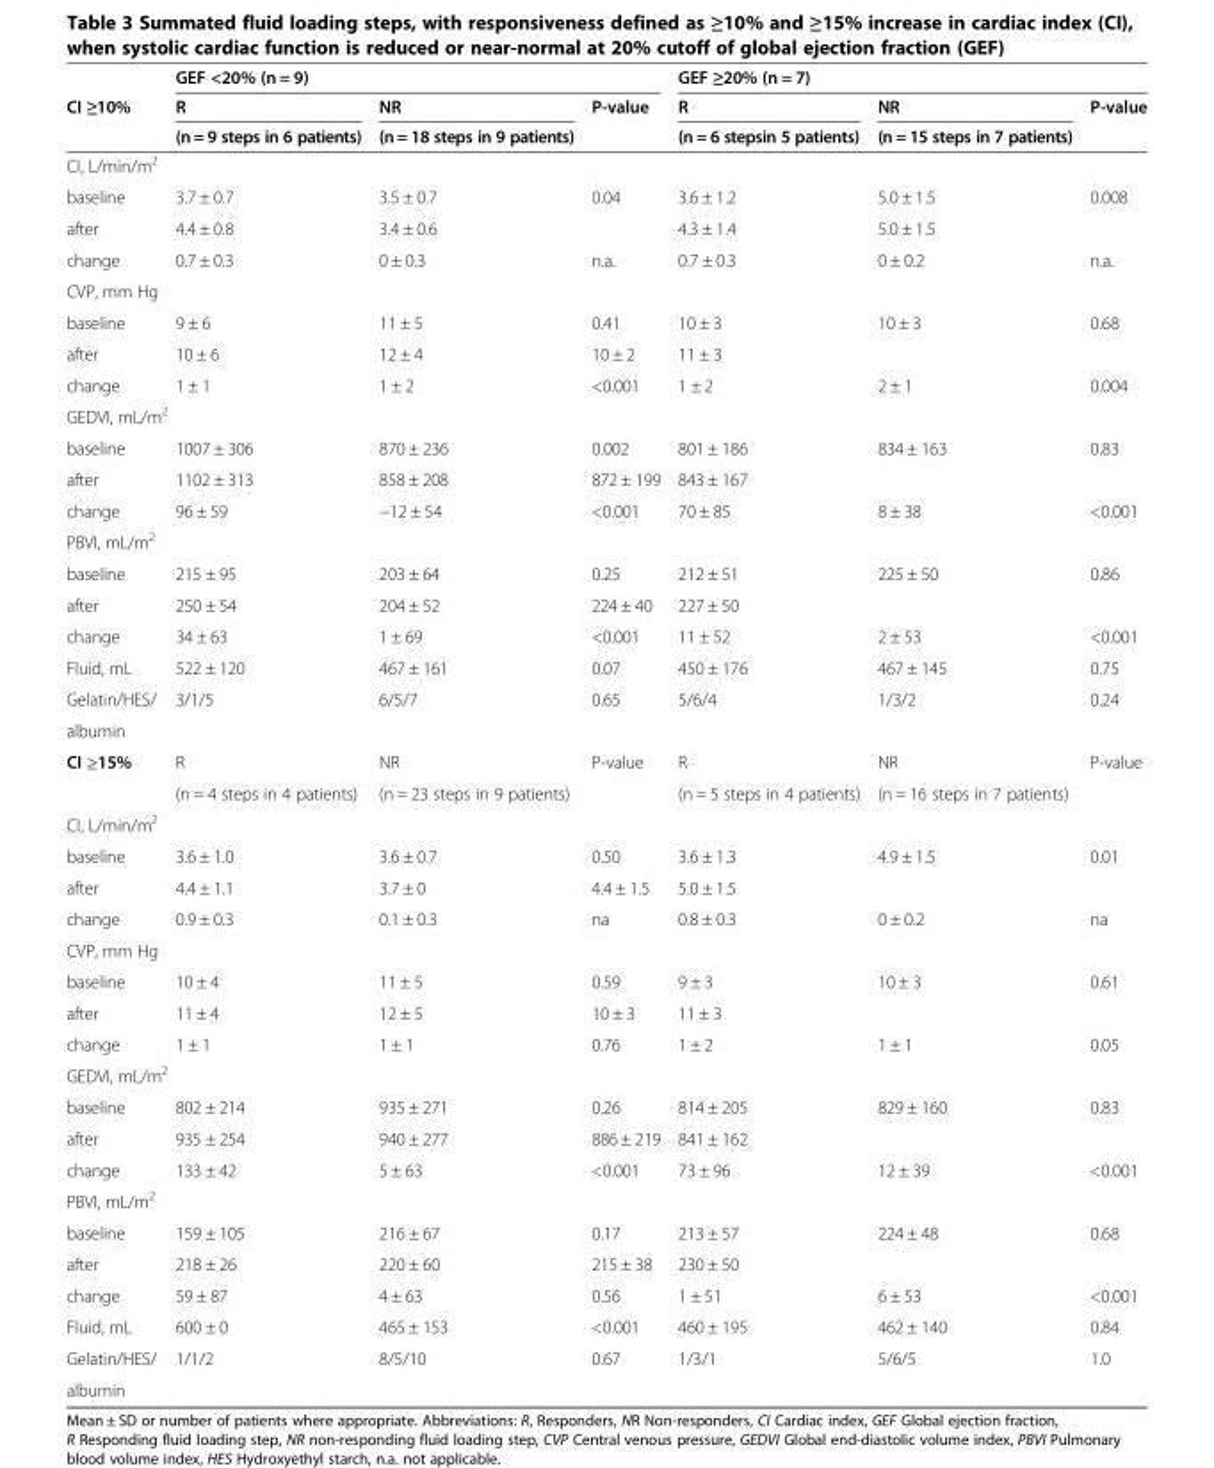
<table><thead><tr><td rowspan="3">CI ≥10%</td><td colspan="3">GEF &lt;20% (n = 9)</td><td colspan="3">GEF ≥20% (n = 7)</td></tr><tr><td rowspan="2">R (n = 9 steps in 6 patients)</td><td rowspan="2">NR (n = 18 steps in 9 patients)</td><td rowspan="2">P-value</td><td rowspan="2">R (n = 6 stepsin 5 patients)</td><td rowspan="2">NR (n = 15 steps in 7 patients)</td><td rowspan="2">P-value</td></tr><tr></tr></thead><tbody><tr><td colspan="7">CI, L/min/m<sup>2</sup></td></tr><tr><td>baseline</td><td>3.7 ± 0.7</td><td>3.5 ± 0.7</td><td>0.04</td><td>3.6 ± 1.2</td><td>5.0 ± 1.5</td><td>0.008</td></tr><tr><td>after</td><td>4.4 ± 0.8</td><td>3.4 ± 0.6</td><td></td><td>4.3 ± 1.4</td><td>5.0 ± 1.5</td><td></td></tr><tr><td>change</td><td>0.7 ± 0.3</td><td>0 ± 0.3</td><td>n.a.</td><td>0.7 ± 0.3</td><td>0 ± 0.2</td><td>n.a.</td></tr><tr><td colspan="7">CVP, mm Hg</td></tr><tr><td>baseline</td><td>9 ± 6</td><td>11 ± 5</td><td>0.41</td><td>10 ± 3</td><td>10 ± 3</td><td>0.68</td></tr><tr><td>after</td><td>10 ± 6</td><td>12 ± 4</td><td>10 ± 2</td><td>11 ± 3</td><td></td><td></td></tr><tr><td>change</td><td>1 ± 1</td><td>1 ± 2</td><td>&lt;0.001</td><td>1 ± 2</td><td>2 ± 1</td><td>0.004</td></tr><tr><td colspan="7">GEDVI, mL/m<sup>2</sup></td></tr><tr><td>baseline</td><td>1007 ± 306</td><td>870 ± 236</td><td>0.002</td><td>801 ± 186</td><td>834 ± 163</td><td>0.83</td></tr><tr><td>after</td><td>1102 ± 313</td><td>858 ± 208</td><td>872 ± 199</td><td>843 ± 167</td><td></td><td></td></tr><tr><td>change</td><td>96 ± 59</td><td>−12 ± 54</td><td>&lt;0.001</td><td>70 ± 85</td><td>8 ± 38</td><td>&lt;0.001</td></tr><tr><td colspan="7">PBVI, mL/m<sup>2</sup></td></tr><tr><td>baseline</td><td>215 ± 95</td><td>203 ± 64</td><td>0.25</td><td>212 ± 51</td><td>225 ± 50</td><td>0.86</td></tr><tr><td>after</td><td>250 ± 54</td><td>204 ± 52</td><td>224 ± 40</td><td>227 ± 50</td><td></td><td></td></tr><tr><td>change</td><td>34 ± 63</td><td>1 ± 69</td><td>&lt;0.001</td><td>11 ± 52</td><td>2 ± 53</td><td>&lt;0.001</td></tr><tr><td>Fluid, mL</td><td>522 ± 120</td><td>467 ± 161</td><td>0.07</td><td>450 ± 176</td><td>467 ± 145</td><td>0.75</td></tr><tr><td>Gelatin/HES/</td><td>3/1/5</td><td>6/5/7</td><td>0.65</td><td>5/6/4</td><td>1/3/2</td><td>0.24</td></tr><tr><td colspan="7">albumin</td></tr><tr><td rowspan="2">CI ≥15%</td><td>R</td><td>NR</td><td>P-value</td><td>R</td><td>NR</td><td>P-value</td></tr><tr><td>(n = 4 steps in 4 patients)</td><td>(n = 23 steps in 9 patients)</td><td></td><td>(n = 5 steps in 4 patients)</td><td>(n = 16 steps in 7 patients)</td><td></td></tr><tr><td colspan="7">CI, L/min/m<sup>2</sup></td></tr><tr><td>baseline</td><td>3.6 ± 1.0</td><td>3.6 ± 0.7</td><td>0.50</td><td>3.6 ± 1.3</td><td>4.9 ± 1.5</td><td>0.01</td></tr><tr><td>after</td><td>4.4 ± 1.1</td><td>3.7 ± 0</td><td>4.4 ± 1.5</td><td>5.0 ± 1.5</td><td></td><td></td></tr><tr><td>change</td><td>0.9 ± 0.3</td><td>0.1 ± 0.3</td><td>na</td><td>0.8 ± 0.3</td><td>0 ± 0.2</td><td>na</td></tr><tr><td colspan="7">CVP, mm Hg</td></tr><tr><td>baseline</td><td>10 ± 4</td><td>11 ± 5</td><td>0.59</td><td>9 ± 3</td><td>10 ± 3</td><td>0.61</td></tr><tr><td>after</td><td>11 ± 4</td><td>12 ± 5</td><td>10 ± 3</td><td>11 ± 3</td><td></td><td></td></tr><tr><td>change</td><td>1 ± 1</td><td>1 ± 1</td><td>0.76</td><td>1 ± 2</td><td>1 ± 1</td><td>0.05</td></tr><tr><td colspan="7">GEDVI, mL/m<sup>2</sup></td></tr><tr><td>baseline</td><td>802 ± 214</td><td>935 ± 271</td><td>0.26</td><td>814 ± 205</td><td>829 ± 160</td><td>0.83</td></tr><tr><td>after</td><td>935 ± 254</td><td>940 ± 277</td><td>886 ± 219</td><td>841 ± 162</td><td></td><td></td></tr><tr><td>change</td><td>133 ± 42</td><td>5 ± 63</td><td>&lt;0.001</td><td>73 ± 96</td><td>12 ± 39</td><td>&lt;0.001</td></tr><tr><td colspan="7">PBVI, mL/m<sup>2</sup></td></tr><tr><td>baseline</td><td>159 ± 105</td><td>216 ± 67</td><td>0.17</td><td>213 ± 57</td><td>224 ± 48</td><td>0.68</td></tr><tr><td>after</td><td>218 ± 26</td><td>220 ± 60</td><td>215 ± 38</td><td>230 ± 50</td><td></td><td></td></tr><tr><td>change</td><td>59 ± 87</td><td>4 ± 63</td><td>0.56</td><td>1 ± 51</td><td>6 ± 53</td><td>&lt;0.001</td></tr><tr><td>Fluid, mL</td><td>600 ± 0</td><td>465 ± 153</td><td>&lt;0.001</td><td>460 ± 195</td><td>462 ± 140</td><td>0.84</td></tr><tr><td>Gelatin/HES/</td><td>1/1/2</td><td>8/5/10</td><td>0.67</td><td>1/3/1</td><td>5/6/5</td><td>1.0</td></tr><tr><td colspan="7">albumin</td></tr></tbody></table>